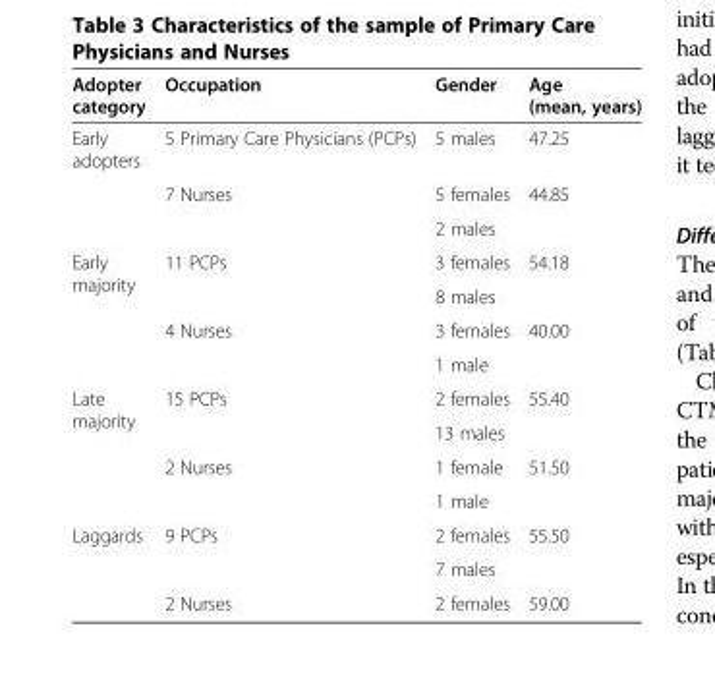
<table><thead><tr><td>Adopter category</td><td>Occupation</td><td>Gender</td><td>Age (mean, years)</td></tr></thead><tbody><tr><td rowspan="3">Early adopters</td><td>5 Primary Care Physicians (PCPs)</td><td>5 males</td><td>47.25</td></tr><tr><td rowspan="2">7 Nurses</td><td>5 females</td><td rowspan="2">44.85</td></tr><tr><td>2 males</td></tr><tr><td rowspan="4">Early majority</td><td rowspan="2">11 PCPs</td><td>3 females</td><td rowspan="2">54.18</td></tr><tr><td>8 males</td></tr><tr><td rowspan="2">4 Nurses</td><td>3 females</td><td rowspan="2">40.00</td></tr><tr><td>1 male</td></tr><tr><td rowspan="4">Late majority</td><td rowspan="2">15 PCPs</td><td>2 females</td><td rowspan="2">55.40</td></tr><tr><td>13 males</td></tr><tr><td rowspan="2">2 Nurses</td><td>1 female</td><td rowspan="2">51.50</td></tr><tr><td>1 male</td></tr><tr><td rowspan="3">Laggards</td><td rowspan="2">9 PCPs</td><td>2 females</td><td rowspan="2">55.50</td></tr><tr><td>7 males</td></tr><tr><td>2 Nurses</td><td>2 females</td><td>59.00</td></tr></tbody></table>